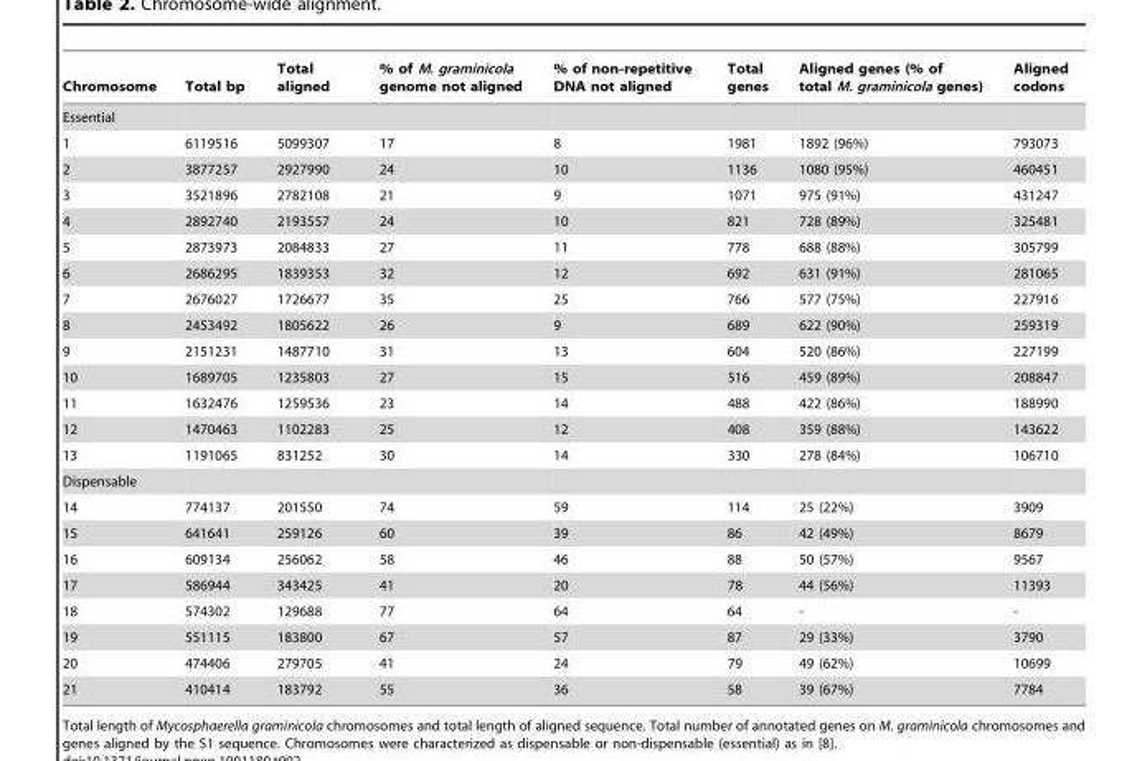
<table><thead><tr><td>Chromosome</td><td>Total bp</td><td>Total aligned</td><td>% of M. graminicola genome not aligned</td><td>% of non-repetitive DNA not aligned</td><td>Total genes</td><td>Aligned genes (% of total M. graminicola genes)</td><td>Aligned codons</td></tr></thead><tbody><tr><td colspan="8">Essential</td></tr><tr><td>1</td><td>6119516</td><td>5099307</td><td>17</td><td>8</td><td>1981</td><td>1892 (96%)</td><td>793073</td></tr><tr><td>2</td><td>3877257</td><td>2927990</td><td>24</td><td>10</td><td>1136</td><td>1080 (95%)</td><td>460451</td></tr><tr><td>3</td><td>3521896</td><td>2782108</td><td>21</td><td>9</td><td>1071</td><td>975 (91%)</td><td>431247</td></tr><tr><td>4</td><td>2892740</td><td>2193557</td><td>24</td><td>10</td><td>821</td><td>728 (89%)</td><td>325481</td></tr><tr><td>5</td><td>2873973</td><td>2084833</td><td>27</td><td>11</td><td>778</td><td>688 (88%)</td><td>305799</td></tr><tr><td>6</td><td>2686295</td><td>1839353</td><td>32</td><td>12</td><td>692</td><td>631 (91%)</td><td>281065</td></tr><tr><td>7</td><td>2676027</td><td>1726677</td><td>35</td><td>25</td><td>766</td><td>577 (75%)</td><td>227916</td></tr><tr><td>8</td><td>2453492</td><td>1805622</td><td>26</td><td>9</td><td>689</td><td>622 (90%)</td><td>259319</td></tr><tr><td>9</td><td>2151231</td><td>1487710</td><td>31</td><td>13</td><td>604</td><td>520 (86%)</td><td>227199</td></tr><tr><td>10</td><td>1689705</td><td>1235803</td><td>27</td><td>15</td><td>516</td><td>459 (89%)</td><td>208847</td></tr><tr><td>11</td><td>1632476</td><td>1259536</td><td>23</td><td>14</td><td>488</td><td>422 (86%)</td><td>188990</td></tr><tr><td>12</td><td>1470463</td><td>1102283</td><td>25</td><td>12</td><td>408</td><td>359 (88%)</td><td>143622</td></tr><tr><td>13</td><td>1191065</td><td>831252</td><td>30</td><td>14</td><td>330</td><td>278 (84%)</td><td>106710</td></tr><tr><td colspan="8">Dispensable</td></tr><tr><td>14</td><td>774137</td><td>201550</td><td>74</td><td>59</td><td>114</td><td>25 (22%)</td><td>3909</td></tr><tr><td>15</td><td>641641</td><td>259126</td><td>60</td><td>39</td><td>86</td><td>42 (49%)</td><td>8679</td></tr><tr><td>16</td><td>609134</td><td>256062</td><td>58</td><td>46</td><td>88</td><td>50 (57%)</td><td>9567</td></tr><tr><td>17</td><td>586944</td><td>343425</td><td>41</td><td>20</td><td>78</td><td>44 (56%)</td><td>11393</td></tr><tr><td>18</td><td>574302</td><td>129688</td><td>77</td><td>64</td><td>64</td><td>-</td><td>-</td></tr><tr><td>19</td><td>551115</td><td>183800</td><td>67</td><td>57</td><td>87</td><td>29 (33%)</td><td>3790</td></tr><tr><td>20</td><td>474406</td><td>279705</td><td>41</td><td>24</td><td>79</td><td>49 (62%)</td><td>10699</td></tr><tr><td>21</td><td>410414</td><td>183792</td><td>55</td><td>36</td><td>58</td><td>39 (67%)</td><td>7784</td></tr></tbody></table>